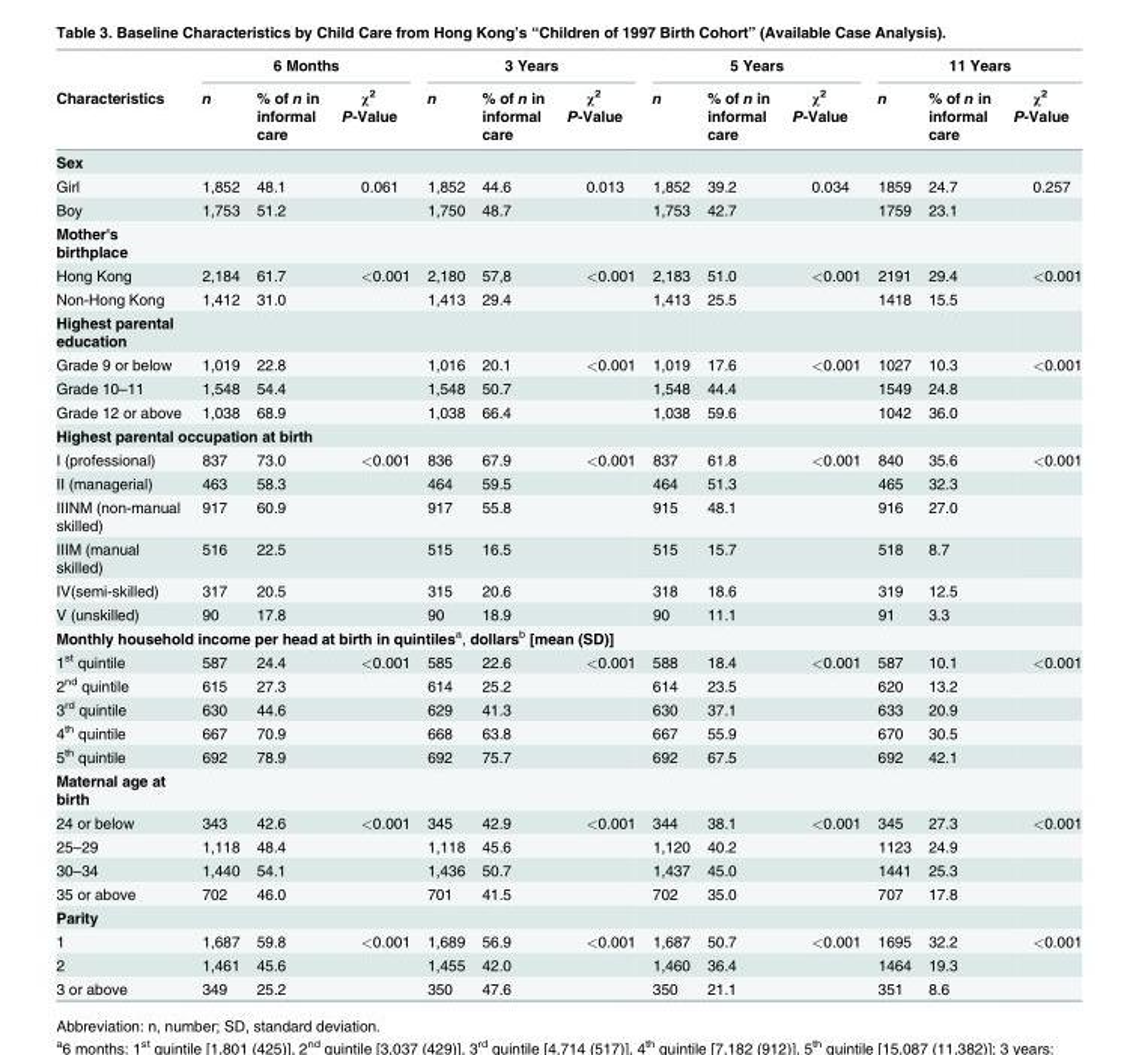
<table><thead><tr><td rowspan="2">Characteristics</td><td colspan="3">6 Months</td><td colspan="3">3 Years</td><td colspan="3">5 Years</td><td colspan="3">11 Years</td></tr><tr><td>n</td><td>% of n in informal care</td><td>χ<sup>2</sup> P-Value</td><td>n</td><td>% of n in informal care</td><td>χ<sup>2</sup> P-Value</td><td>n</td><td>% of n in informal care</td><td>χ<sup>2</sup> P-Value</td><td>n</td><td>% of n in informal care</td><td>χ<sup>2</sup> P-Value</td></tr></thead><tbody><tr><td colspan="13">Sex</td></tr><tr><td>Girl</td><td>1,852</td><td>48.1</td><td>0.061</td><td>1,852</td><td>44.6</td><td>0.013</td><td>1,852</td><td>39.2</td><td>0.034</td><td>1859</td><td>24.7</td><td>0.257</td></tr><tr><td>Boy</td><td>1,753</td><td>51.2</td><td></td><td>1,750</td><td>48.7</td><td></td><td>1,753</td><td>42.7</td><td></td><td>1759</td><td>23.1</td><td></td></tr><tr><td colspan="13">Mother&#x27;s birthplace</td></tr><tr><td>Hong Kong</td><td>2,184</td><td>61.7</td><td>&lt;0.001</td><td>2,180</td><td>57,8</td><td>&lt;0.001</td><td>2,183</td><td>51.0</td><td>&lt;0.001</td><td>2191</td><td>29.4</td><td>&lt;0.001</td></tr><tr><td>Non-Hong Kong</td><td>1,412</td><td>31.0</td><td></td><td>1,413</td><td>29.4</td><td></td><td>1,413</td><td>25.5</td><td></td><td>1418</td><td>15.5</td><td></td></tr><tr><td colspan="13">Highest parental education</td></tr><tr><td>Grade 9 or below</td><td>1,019</td><td>22.8</td><td></td><td>1,016</td><td>20.1</td><td>&lt;0.001</td><td>1,019</td><td>17.6</td><td>&lt;0.001</td><td>1027</td><td>10.3</td><td>&lt;0.001</td></tr><tr><td>Grade 10–11</td><td>1,548</td><td>54.4</td><td></td><td>1,548</td><td>50.7</td><td></td><td>1,548</td><td>44.4</td><td></td><td>1549</td><td>24.8</td><td></td></tr><tr><td>Grade 12 or above</td><td>1,038</td><td>68.9</td><td></td><td>1,038</td><td>66.4</td><td></td><td>1,038</td><td>59.6</td><td></td><td>1042</td><td>36.0</td><td></td></tr><tr><td colspan="13">Highest parental occupation at birth</td></tr><tr><td>I (professional)</td><td>837</td><td>73.0</td><td>&lt;0.001</td><td>836</td><td>67.9</td><td>&lt;0.001</td><td>837</td><td>61.8</td><td>&lt;0.001</td><td>840</td><td>35.6</td><td>&lt;0.001</td></tr><tr><td>II (managerial)</td><td>463</td><td>58.3</td><td></td><td>464</td><td>59.5</td><td></td><td>464</td><td>51.3</td><td></td><td>465</td><td>32.3</td><td></td></tr><tr><td>IIINM (non-manual skilled)</td><td>917</td><td>60.9</td><td></td><td>917</td><td>55.8</td><td></td><td>915</td><td>48.1</td><td></td><td>916</td><td>27.0</td><td></td></tr><tr><td>IIIM (manual skilled)</td><td>516</td><td>22.5</td><td></td><td>515</td><td>16.5</td><td></td><td>515</td><td>15.7</td><td></td><td>518</td><td>8.7</td><td></td></tr><tr><td>IV(semi-skilled)</td><td>317</td><td>20.5</td><td></td><td>315</td><td>20.6</td><td></td><td>318</td><td>18.6</td><td></td><td>319</td><td>12.5</td><td></td></tr><tr><td>V (unskilled)</td><td>90</td><td>17.8</td><td></td><td>90</td><td>18.9</td><td></td><td>90</td><td>11.1</td><td></td><td>91</td><td>3.3</td><td></td></tr><tr><td colspan="13">Monthly household income per head at birth in quintiles<sup>a</sup>, dollars<sup>b</sup> [mean (SD)]</td></tr><tr><td>1<sup>st</sup> quintile</td><td>587</td><td>24.4</td><td>&lt;0.001</td><td>585</td><td>22.6</td><td>&lt;0.001</td><td>588</td><td>18.4</td><td>&lt;0.001</td><td>587</td><td>10.1</td><td>&lt;0.001</td></tr><tr><td>2<sup>nd</sup> quintile</td><td>615</td><td>27.3</td><td></td><td>614</td><td>25.2</td><td></td><td>614</td><td>23.5</td><td></td><td>620</td><td>13.2</td><td></td></tr><tr><td>3<sup>rd</sup> quintile</td><td>630</td><td>44.6</td><td></td><td>629</td><td>41.3</td><td></td><td>630</td><td>37.1</td><td></td><td>633</td><td>20.9</td><td></td></tr><tr><td>4<sup>th</sup> quintile</td><td>667</td><td>70.9</td><td></td><td>668</td><td>63.8</td><td></td><td>667</td><td>55.9</td><td></td><td>670</td><td>30.5</td><td></td></tr><tr><td>5<sup>th</sup> quintile</td><td>692</td><td>78.9</td><td></td><td>692</td><td>75.7</td><td></td><td>692</td><td>67.5</td><td></td><td>692</td><td>42.1</td><td></td></tr><tr><td colspan="13">Maternal age at birth</td></tr><tr><td>24 or below</td><td>343</td><td>42.6</td><td>&lt;0.001</td><td>345</td><td>42.9</td><td>&lt;0.001</td><td>344</td><td>38.1</td><td>&lt;0.001</td><td>345</td><td>27.3</td><td>&lt;0.001</td></tr><tr><td>25–29</td><td>1,118</td><td>48.4</td><td></td><td>1,118</td><td>45.6</td><td></td><td>1,120</td><td>40.2</td><td></td><td>1123</td><td>24.9</td><td></td></tr><tr><td>30–34</td><td>1,440</td><td>54.1</td><td></td><td>1,436</td><td>50.7</td><td></td><td>1,437</td><td>45.0</td><td></td><td>1441</td><td>25.3</td><td></td></tr><tr><td>35 or above</td><td>702</td><td>46.0</td><td></td><td>701</td><td>41.5</td><td></td><td>702</td><td>35.0</td><td></td><td>707</td><td>17.8</td><td></td></tr><tr><td colspan="13">Parity</td></tr><tr><td>1</td><td>1,687</td><td>59.8</td><td>&lt;0.001</td><td>1,689</td><td>56.9</td><td>&lt;0.001</td><td>1,687</td><td>50.7</td><td>&lt;0.001</td><td>1695</td><td>32.2</td><td>&lt;0.001</td></tr><tr><td>2</td><td>1,461</td><td>45.6</td><td></td><td>1,455</td><td>42.0</td><td></td><td>1,460</td><td>36.4</td><td></td><td>1464</td><td>19.3</td><td></td></tr><tr><td>3 or above</td><td>349</td><td>25.2</td><td></td><td>350</td><td>47.6</td><td></td><td>350</td><td>21.1</td><td></td><td>351</td><td>8.6</td><td></td></tr></tbody></table>